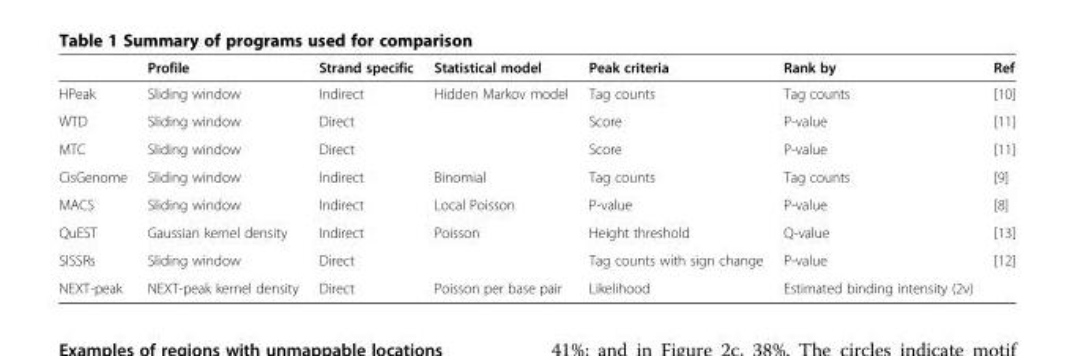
<table><thead><tr><td></td><td>Profile</td><td>Strand specific</td><td>Statistical model</td><td>Peak criteria</td><td>Rank by</td><td>Ref</td></tr></thead><tbody><tr><td>HPeak</td><td>Sliding window</td><td>Indirect</td><td>Hidden Markov model</td><td>Tag counts</td><td>Tag counts</td><td>[10]</td></tr><tr><td>WTD</td><td>Sliding window</td><td>Direct</td><td></td><td>Score</td><td>P-value</td><td>[11]</td></tr><tr><td>MTC</td><td>Sliding window</td><td>Direct</td><td></td><td>Score</td><td>P-value</td><td>[11]</td></tr><tr><td>CisGenome</td><td>Sliding window</td><td>Indirect</td><td>Binomial</td><td>Tag counts</td><td>Tag counts</td><td>[9]</td></tr><tr><td>MACS</td><td>Sliding window</td><td>Indirect</td><td>Local Poisson</td><td>P-value</td><td>P-value</td><td>[8]</td></tr><tr><td>QuEST</td><td>Gaussian kernel density</td><td>Indirect</td><td>Poisson</td><td>Height threshold</td><td>Q-value</td><td>[13]</td></tr><tr><td>SISSRs</td><td>Sliding window</td><td>Direct</td><td></td><td>Tag counts with sign change</td><td>P-value</td><td>[12]</td></tr><tr><td>NEXT-peak</td><td>NEXT-peak kernel density</td><td>Direct</td><td>Poisson per base pair</td><td>Likelihood</td><td>Estimated binding intensity (2ν)</td><td></td></tr></tbody></table>